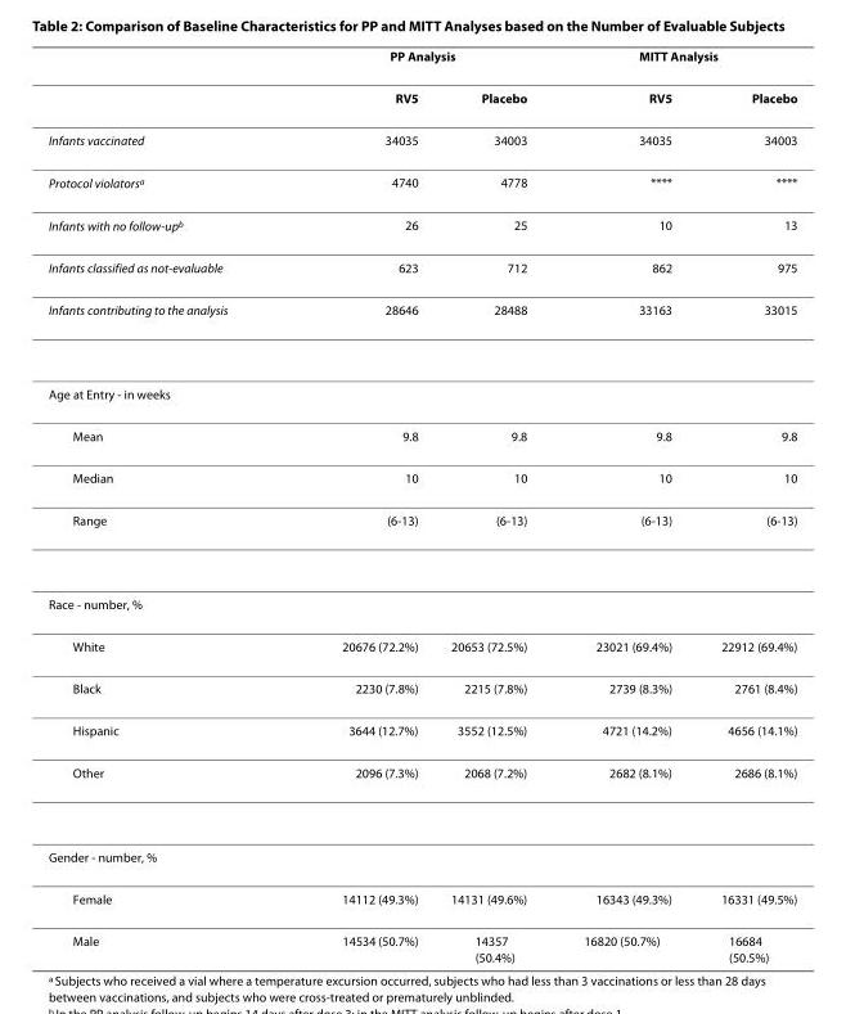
<table><thead><tr><td rowspan="2"></td><td colspan="2">PP Analysis</td><td colspan="2">MITT Analysis</td></tr><tr><td>RV5</td><td>Placebo</td><td>RV5</td><td>Placebo</td></tr></thead><tbody><tr><td>Infants vaccinated</td><td>34035</td><td>34003</td><td>34035</td><td>34003</td></tr><tr><td>Protocol violatorsa</td><td>4740</td><td>4778</td><td>****</td><td>****</td></tr><tr><td>Infants with no follow-upb</td><td>26</td><td>25</td><td>10</td><td>13</td></tr><tr><td>Infants classified as not-evaluable</td><td>623</td><td>712</td><td>862</td><td>975</td></tr><tr><td>Infants contributing to the analysis</td><td>28646</td><td>28488</td><td>33163</td><td>33015</td></tr><tr><td colspan="5">Age at Entry - in weeks</td></tr><tr><td>Mean</td><td>9.8</td><td>9.8</td><td>9.8</td><td>9.8</td></tr><tr><td>Median</td><td>10</td><td>10</td><td>10</td><td>10</td></tr><tr><td>Range</td><td>(6-13)</td><td>(6-13)</td><td>(6-13)</td><td>(6-13)</td></tr><tr><td colspan="5">Race - number, %</td></tr><tr><td>White</td><td>20676 (72.2%)</td><td>20653 (72.5%)</td><td>23021 (69.4%)</td><td>22912 (69.4%)</td></tr><tr><td>Black</td><td>2230 (7.8%)</td><td>2215 (7.8%)</td><td>2739 (8.3%)</td><td>2761 (8.4%)</td></tr><tr><td>Hispanic</td><td>3644 (12.7%)</td><td>3552 (12.5%)</td><td>4721 (14.2%)</td><td>4656 (14.1%)</td></tr><tr><td>Other</td><td>2096 (7.3%)</td><td>2068 (7.2%)</td><td>2682 (8.1%)</td><td>2686 (8.1%)</td></tr><tr><td colspan="5">Gender - number, %</td></tr><tr><td>Female</td><td>14112 (49.3%)</td><td>14131 (49.6%)</td><td>16343 (49.3%)</td><td>16331 (49.5%)</td></tr><tr><td>Male</td><td>14534 (50.7%)</td><td>14357 (50.4%)</td><td>16820 (50.7%)</td><td>16684 (50.5%)</td></tr></tbody></table>